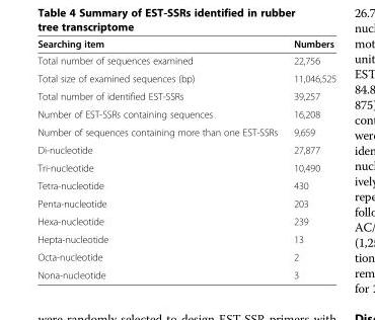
<table><thead><tr><td>Searching item</td><td>Numbers</td></tr></thead><tbody><tr><td>Total number of sequences examined</td><td>22,756</td></tr><tr><td>Total size of examined sequences (bp)</td><td>11,046,525</td></tr><tr><td>Total number of identified EST-SSRs</td><td>39,257</td></tr><tr><td>Number of EST-SSRs containing sequences</td><td>16,208</td></tr><tr><td>Number of sequences containing more than one EST-SSRs</td><td>9,659</td></tr><tr><td>Di-nucleotide</td><td>27,877</td></tr><tr><td>Tri-nucleotide</td><td>10,490</td></tr><tr><td>Tetra-nucleotide</td><td>430</td></tr><tr><td>Penta-nucleotide</td><td>203</td></tr><tr><td>Hexa-nucleotide</td><td>239</td></tr><tr><td>Hepta-nucleotide</td><td>13</td></tr><tr><td>Octa-nucleotide</td><td>2</td></tr><tr><td>Nona-nucleotide</td><td>3</td></tr></tbody></table>